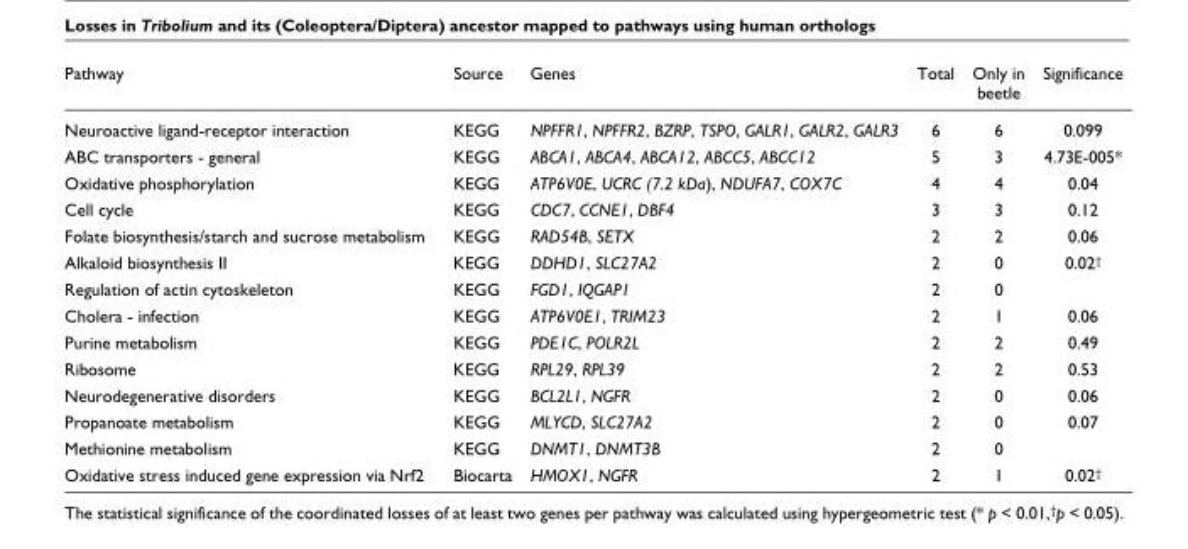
<table><thead><tr><td>Pathway</td><td>Source</td><td>Genes</td><td>Total</td><td>Only in beetle</td><td>Significance</td></tr></thead><tbody><tr><td>Neuroactive ligand-receptor interaction</td><td>KEGG</td><td>NPFFR1, NPFFR2, BZRP, TSPO, GALR1, GALR2, GALR3</td><td>6</td><td>6</td><td>0.099</td></tr><tr><td>ABC transporters - general</td><td>KEGG</td><td>ABCA1, ABCA4, ABCA12, ABCC5, ABCC12</td><td>5</td><td>3</td><td>4.73E-005*</td></tr><tr><td>Oxidative phosphorylation</td><td>KEGG</td><td>ATP6V0E, UCRC (7.2 kDa), NDUFA7, COX7C</td><td>4</td><td>4</td><td>0.04</td></tr><tr><td>Cell cycle</td><td>KEGG</td><td>CDC7, CCNE1, DBF4</td><td>3</td><td>3</td><td>0.12</td></tr><tr><td>Folate biosynthesis/starch and sucrose metabolism</td><td>KEGG</td><td>RAD54B, SETX</td><td>2</td><td>2</td><td>0.06</td></tr><tr><td>Alkaloid biosynthesis II</td><td>KEGG</td><td>DDHD1, SLC27A2</td><td>2</td><td>0</td><td>0.02<sup>†</sup></td></tr><tr><td>Regulation of actin cytoskeleton</td><td>KEGG</td><td>FGD1, IQGAP1</td><td>2</td><td>0</td><td></td></tr><tr><td>Cholera - infection</td><td>KEGG</td><td>ATP6V0E1, TRIM23</td><td>2</td><td>1</td><td>0.06</td></tr><tr><td>Purine metabolism</td><td>KEGG</td><td>PDE1C, POLR2L</td><td>2</td><td>2</td><td>0.49</td></tr><tr><td>Ribosome</td><td>KEGG</td><td>RPL29, RPL39</td><td>2</td><td>2</td><td>0.53</td></tr><tr><td>Neurodegenerative disorders</td><td>KEGG</td><td>BCL2L1, NGFR</td><td>2</td><td>0</td><td>0.06</td></tr><tr><td>Propanoate metabolism</td><td>KEGG</td><td>MLYCD, SLC27A2</td><td>2</td><td>0</td><td>0.07</td></tr><tr><td>Methionine metabolism</td><td>KEGG</td><td>DNMT1, DNMT3B</td><td>2</td><td>0</td><td></td></tr><tr><td>Oxidative stress induced gene expression via Nrf2</td><td>Biocarta</td><td>HMOX1, NGFR</td><td>2</td><td>1</td><td>0.02<sup>†</sup></td></tr></tbody></table>